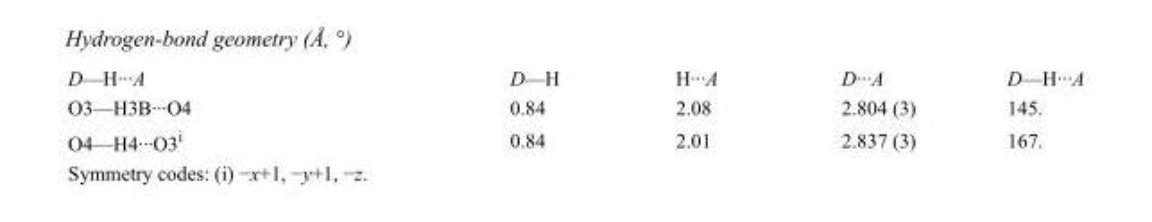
<table><tbody><tr><td>D—H···A</td><td>D—H</td><td>H···A</td><td>D···A</td><td>D—H···A</td></tr><tr><td>O3—H3B···O4</td><td>0.84</td><td>2.08</td><td>2.804 (3)</td><td>145.</td></tr><tr><td>O4—H4···O3<sup>i</sup></td><td>0.84</td><td>2.01</td><td>2.837 (3)</td><td>167.</td></tr></tbody></table>